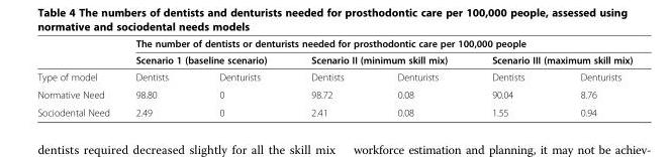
<table><thead><tr><td rowspan="3">Type of model</td><td colspan="6">The number of dentists or denturists needed for prosthodontic care per 100,000 people</td></tr><tr><td colspan="2">Scenario 1 (baseline scenario)</td><td colspan="2">Scenario II (minimum skill mix)</td><td colspan="2">Scenario III (maximum skill mix)</td></tr><tr><td>Dentists</td><td>Denturists</td><td>Dentists</td><td>Denturists</td><td>Dentists</td><td>Denturists</td></tr></thead><tbody><tr><td>Normative Need</td><td>98.80</td><td>0</td><td>98.72</td><td>0.08</td><td>90.04</td><td>8.76</td></tr><tr><td>Sociodental Need</td><td>2.49</td><td>0</td><td>2.41</td><td>0.08</td><td>1.55</td><td>0.94</td></tr></tbody></table>